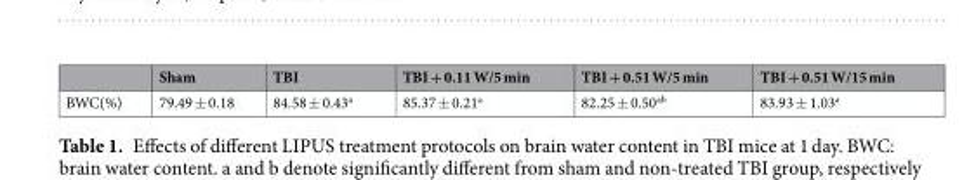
<table><thead><tr><td></td><td>Sham</td><td>TBI</td><td>TBI + 0.11 W/5 min</td><td>TBI + 0.51 W/5 min</td><td>TBI + 0.51 W/15 min</td></tr></thead><tbody><tr><td>BWC(%)</td><td>79.49 ± 0.18</td><td>84.58 ± 0.43<sup>a</sup></td><td>85.37 ± 0.21<sup>a</sup></td><td>82.25 ± 0.50<sup>ab</sup></td><td>83.93 ± 1.03<sup>a</sup></td></tr></tbody></table>